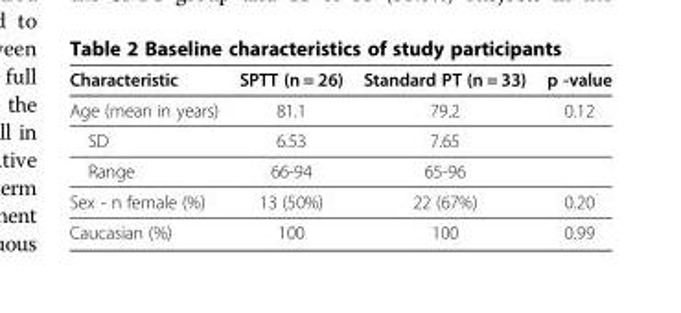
<table><thead><tr><td>Characteristic</td><td>SPTT (n = 26)</td><td>Standard PT (n = 33)</td><td>p -value</td></tr></thead><tbody><tr><td>Age (mean in years)</td><td>81.1</td><td>79.2</td><td>0.12</td></tr><tr><td>SD</td><td>6.53</td><td>7.65</td><td></td></tr><tr><td>Range</td><td>66-94</td><td>65-96</td><td></td></tr><tr><td>Sex - n female (%)</td><td>13 (50%)</td><td>22 (67%)</td><td>0.20</td></tr><tr><td>Caucasian (%)</td><td>100</td><td>100</td><td>0.99</td></tr></tbody></table>